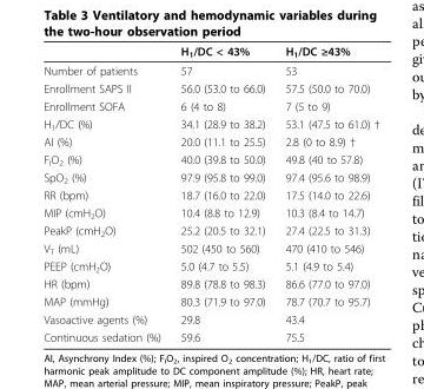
<table><thead><tr><td></td><td>H<sub>1</sub>/DC &lt; 43%</td><td>H<sub>1</sub>/DC ≥43%</td></tr></thead><tbody><tr><td>Number of patients</td><td>57</td><td>53</td></tr><tr><td>Enrollment SAPS II</td><td>56.0 (53.0 to 66.0)</td><td>57.5 (50.0 to 70.0)</td></tr><tr><td>Enrollment SOFA</td><td>6 (4 to 8)</td><td>7 (5 to 9)</td></tr><tr><td>H<sub>1</sub>/DC (%)</td><td>34.1 (28.9 to 38.2)</td><td>53.1 (47.5 to 61.0) †</td></tr><tr><td>AI (%)</td><td>20.0 (11.1 to 25.5)</td><td>2.8 (0 to 8.9) †</td></tr><tr><td>F<sub>I</sub>O<sub>2</sub> (%)</td><td>40.0 (39.8 to 50.0)</td><td>49.8 (40 to 57.8)</td></tr><tr><td>SpO<sub>2</sub> (%)</td><td>97.9 (95.8 to 99.0)</td><td>97.4 (95.6 to 98.9)</td></tr><tr><td>RR (bpm)</td><td>18.7 (16.0 to 22.0)</td><td>17.5 (14.0 to 22.6)</td></tr><tr><td>MIP (cmH<sub>2</sub>O)</td><td>10.4 (8.8 to 12.9)</td><td>10.3 (8.4 to 14.7)</td></tr><tr><td>PeakP (cmH<sub>2</sub>O)</td><td>25.2 (20.5 to 32.1)</td><td>27.4 (22.5 to 31.3)</td></tr><tr><td>V<sub>T</sub> (mL)</td><td>502 (450 to 560)</td><td>470 (410 to 546)</td></tr><tr><td>PEEP (cmH<sub>2</sub>O)</td><td>5.0 (4.7 to 5.5)</td><td>5.1 (4.9 to 5.4)</td></tr><tr><td>HR (bpm)</td><td>89.8 (78.8 to 98.3)</td><td>86.6 (77.0 to 97.0)</td></tr><tr><td>MAP (mmHg)</td><td>80.3 (71.9 to 97.0)</td><td>78.7 (70.7 to 95.7)</td></tr><tr><td>Vasoactive agents (%)</td><td>29.8</td><td>43.4</td></tr><tr><td>Continuous sedation (%)</td><td>59.6</td><td>75.5</td></tr></tbody></table>